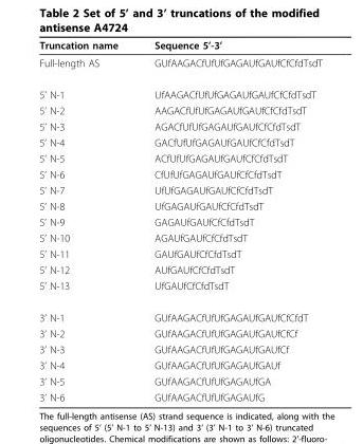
<table><thead><tr><td>Truncation name</td><td>Sequence 5’-3’</td></tr></thead><tbody><tr><td>Full-length AS</td><td>GUfAAGACfUfUfGAGAUfGAUfCfCfdTsdT</td></tr><tr><td>5’ N-1</td><td>UfAAGACfUfUfGAGAUfGAUfCfCfdTsdT</td></tr><tr><td>5’ N-2</td><td>AAGACfUfUfGAGAUfGAUfCfCfdTsdT</td></tr><tr><td>5’ N-3</td><td>AGACfUfUfGAGAUfGAUfCfCfdTsdT</td></tr><tr><td>5’ N-4</td><td>GACfUfUfGAGAUfGAUfCfCfdTsdT</td></tr><tr><td>5’ N-5</td><td>ACfUfUfGAGAUfGAUfCfCfdTsdT</td></tr><tr><td>5’ N-6</td><td>CfUfUfGAGAUfGAUfCfCfdTsdT</td></tr><tr><td>5’ N-7</td><td>UfUfGAGAUfGAUfCfCfdTsdT</td></tr><tr><td>5’ N-8</td><td>UfGAGAUfGAUfCfCfdTsdT</td></tr><tr><td>5’ N-9</td><td>GAGAUfGAUfCfCfdTsdT</td></tr><tr><td>5’ N-10</td><td>AGAUfGAUfCfCfdTsdT</td></tr><tr><td>5’ N-11</td><td>GAUfGAUfCfCfdTsdT</td></tr><tr><td>5’ N-12</td><td>AUfGAUfCfCfdTsdT</td></tr><tr><td>5’ N-13</td><td>UfGAUfCfCfdTsdT</td></tr><tr><td>3’ N-1</td><td>GUfAAGACfUfUfGAGAUfGAUfCfCfdT</td></tr><tr><td>3’ N-2</td><td>GUfAAGACfUfUfGAGAUfGAUfCfCf</td></tr><tr><td>3’ N-3</td><td>GUfAAGACfUfUfGAGAUfGAUfCf</td></tr><tr><td>3’ N-4</td><td>GUfAAGACfUfUfGAGAUfGAUf</td></tr><tr><td>3’ N-5</td><td>GUfAAGACfUfUfGAGAUfGA</td></tr><tr><td>3’ N-6</td><td>GUfAAGACfUfUfGAGAUfG</td></tr></tbody></table>